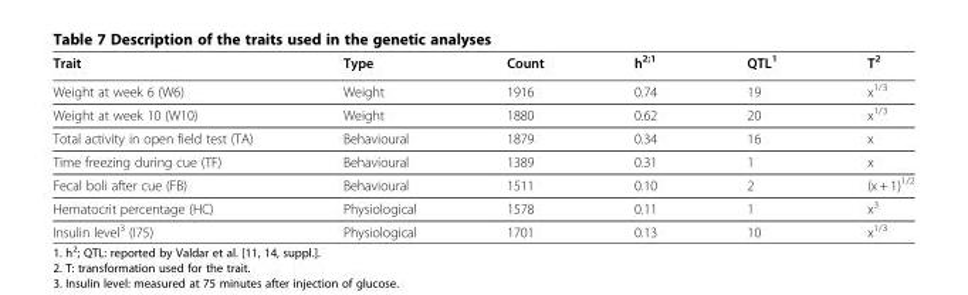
<table><thead><tr><td>Trait</td><td>Type</td><td>Count</td><td>h<sup>2;1</sup></td><td>QTL<sup>1</sup></td><td>T<sup>2</sup></td></tr></thead><tbody><tr><td>Weight at week 6 (W6)</td><td>Weight</td><td>1916</td><td>0.74</td><td>19</td><td>x<sup>1/3</sup></td></tr><tr><td>Weight at week 10 (W10)</td><td>Weight</td><td>1880</td><td>0.62</td><td>20</td><td>x<sup>1/3</sup></td></tr><tr><td>Total activity in open field test (TA)</td><td>Behavioural</td><td>1879</td><td>0.34</td><td>16</td><td>x</td></tr><tr><td>Time freezing during cue (TF)</td><td>Behavioural</td><td>1389</td><td>0.31</td><td>1</td><td>x</td></tr><tr><td>Fecal boli after cue (FB)</td><td>Behavioural</td><td>1511</td><td>0.10</td><td>2</td><td>(x + 1)<sup>1/2</sup></td></tr><tr><td>Hematocrit percentage (HC)</td><td>Physiological</td><td>1578</td><td>0.11</td><td>1</td><td>x<sup>3</sup></td></tr><tr><td>Insulin level<sup>3</sup> (I75)</td><td>Physiological</td><td>1701</td><td>0.13</td><td>10</td><td>x<sup>1/3</sup></td></tr></tbody></table>